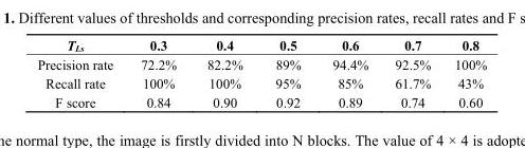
<table><thead><tr><td>T<sub>Ls</sub></td><td>0.3</td><td>0.4</td><td>0.5</td><td>0.6</td><td>0.7</td><td>0.8</td></tr></thead><tbody><tr><td>Precision rate</td><td>72.2%</td><td>82.2%</td><td>89%</td><td>94.4%</td><td>92.5%</td><td>100%</td></tr><tr><td>Recall rate</td><td>100%</td><td>100%</td><td>95%</td><td>85%</td><td>61.7%</td><td>43%</td></tr><tr><td>F score</td><td>0.84</td><td>0.90</td><td>0.92</td><td>0.89</td><td>0.74</td><td>0.60</td></tr></tbody></table>